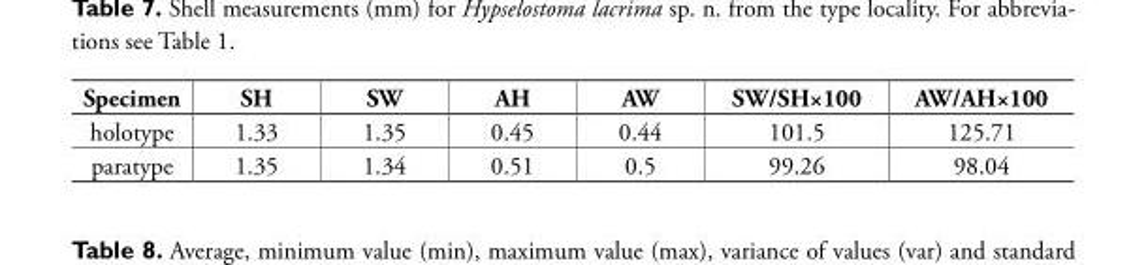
<table><thead><tr><td>Specimen</td><td>SH</td><td>SW</td><td>AH</td><td>AW</td><td>SW/SH×100</td><td>AW/AH×100</td></tr></thead><tbody><tr><td>holotype</td><td>1.33</td><td>1.35</td><td>0.45</td><td>0.44</td><td>101.5</td><td>125.71</td></tr><tr><td>paratype</td><td>1.35</td><td>1.34</td><td>0.51</td><td>0.5</td><td>99.26</td><td>98.04</td></tr></tbody></table>